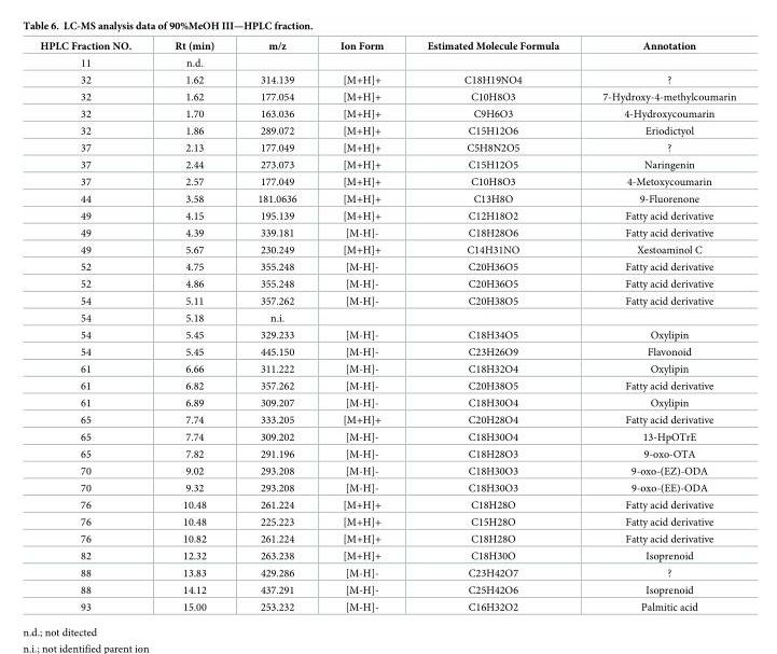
<table><thead><tr><td>HPLC Fraction NO.</td><td>Rt (min)</td><td>m/z</td><td>Ion Form</td><td>Estimated Molecule Formula</td><td>Annotation</td></tr></thead><tbody><tr><td>11</td><td>n.d.</td><td></td><td></td><td></td><td></td></tr><tr><td>32</td><td>1.62</td><td>314.139</td><td>[M+H]+</td><td>C18H19NO4</td><td>?</td></tr><tr><td>32</td><td>1.62</td><td>177.054</td><td>[M+H]+</td><td>C10H8O3</td><td>7-Hydroxy-4-methylcoumarin</td></tr><tr><td>32</td><td>1.70</td><td>163.036</td><td>[M+H]+</td><td>C9H6O3</td><td>4-Hydroxycoumarin</td></tr><tr><td>32</td><td>1.86</td><td>289.072</td><td>[M+H]+</td><td>C15H12O6</td><td>Eriodictyol</td></tr><tr><td>37</td><td>2.13</td><td>177.049</td><td>[M+H]+</td><td>C5H8N2O5</td><td>?</td></tr><tr><td>37</td><td>2.44</td><td>273.073</td><td>[M+H]+</td><td>C15H12O5</td><td>Naringenin</td></tr><tr><td>37</td><td>2.57</td><td>177.049</td><td>[M+H]+</td><td>C10H8O3</td><td>4-Metoxycoumarin</td></tr><tr><td>44</td><td>3.58</td><td>181.0636</td><td>[M+H]+</td><td>C13H8O</td><td>9-Fluorenone</td></tr><tr><td>49</td><td>4.15</td><td>195.139</td><td>[M+H]+</td><td>C12H18O2</td><td>Fatty acid derivative</td></tr><tr><td>49</td><td>4.39</td><td>339.181</td><td>[M-H]-</td><td>C18H28O6</td><td>Fatty acid derivative</td></tr><tr><td>49</td><td>5.67</td><td>230.249</td><td>[M+H]+</td><td>C14H31NO</td><td>Xestoaminol C</td></tr><tr><td>52</td><td>4.75</td><td>355.248</td><td>[M-H]-</td><td>C20H36O5</td><td>Fatty acid derivative</td></tr><tr><td>52</td><td>4.86</td><td>355.248</td><td>[M-H]-</td><td>C20H36O5</td><td>Fatty acid derivative</td></tr><tr><td>54</td><td>5.11</td><td>357.262</td><td>[M-H]-</td><td>C20H38O5</td><td>Fatty acid derivative</td></tr><tr><td>54</td><td>5.18</td><td>n.i.</td><td></td><td></td><td></td></tr><tr><td>54</td><td>5.45</td><td>329.233</td><td>[M-H]-</td><td>C18H34O5</td><td>Oxylipin</td></tr><tr><td>54</td><td>5.45</td><td>445.150</td><td>[M-H]-</td><td>C23H26O9</td><td>Flavonoid</td></tr><tr><td>61</td><td>6.66</td><td>311.222</td><td>[M-H]-</td><td>C18H32O4</td><td>Oxylipin</td></tr><tr><td>61</td><td>6.82</td><td>357.262</td><td>[M-H]-</td><td>C20H38O5</td><td>Fatty acid derivative</td></tr><tr><td>61</td><td>6.89</td><td>309.207</td><td>[M-H]-</td><td>C18H30O4</td><td>Oxylipin</td></tr><tr><td>65</td><td>7.74</td><td>333.205</td><td>[M+H]+</td><td>C20H28O4</td><td>Fatty acid derivative</td></tr><tr><td>65</td><td>7.74</td><td>309.202</td><td>[M-H]-</td><td>C18H30O4</td><td>13-HpOTrE</td></tr><tr><td>65</td><td>7.82</td><td>291.196</td><td>[M-H]-</td><td>C18H28O3</td><td>9-oxo-OTA</td></tr><tr><td>70</td><td>9.02</td><td>293.208</td><td>[M-H]-</td><td>C18H30O3</td><td>9-oxo-(EZ)-ODA</td></tr><tr><td>70</td><td>9.32</td><td>293.208</td><td>[M-H]-</td><td>C18H30O3</td><td>9-oxo-(EE)-ODA</td></tr><tr><td>76</td><td>10.48</td><td>261.224</td><td>[M+H]+</td><td>C18H28O</td><td>Fatty acid derivative</td></tr><tr><td>76</td><td>10.48</td><td>225.223</td><td>[M+H]+</td><td>C15H28O</td><td>Fatty acid derivative</td></tr><tr><td>76</td><td>10.82</td><td>261.224</td><td>[M+H]+</td><td>C18H28O</td><td>Fatty acid derivative</td></tr><tr><td>82</td><td>12.32</td><td>263.238</td><td>[M+H]+</td><td>C18H30O</td><td>Isoprenoid</td></tr><tr><td>88</td><td>13.83</td><td>429.286</td><td>[M-H]-</td><td>C23H42O7</td><td>?</td></tr><tr><td>88</td><td>14.12</td><td>437.291</td><td>[M-H]-</td><td>C25H42O6</td><td>Isoprenoid</td></tr><tr><td>93</td><td>15.00</td><td>253.232</td><td>[M-H]-</td><td>C16H32O2</td><td>Palmitic acid</td></tr></tbody></table>